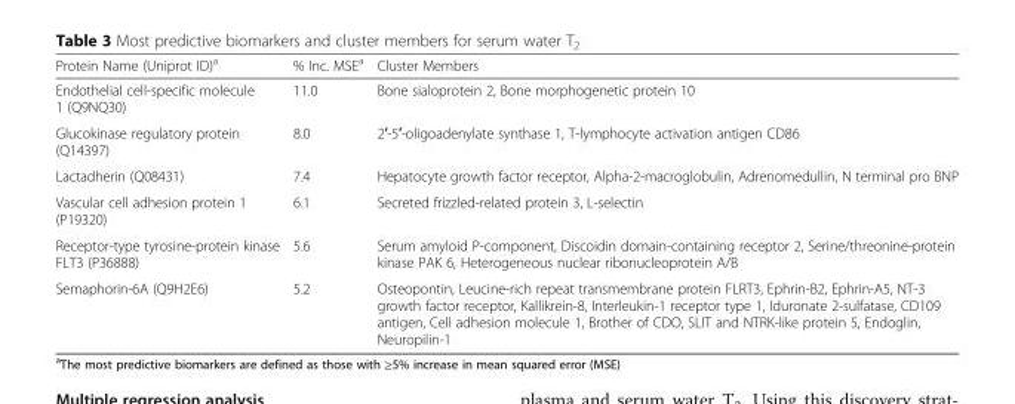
<table><thead><tr><td>Protein Name (Uniprot ID)<sup>a</sup></td><td>% Inc. MSE<sup>a</sup></td><td>Cluster Members</td></tr></thead><tbody><tr><td>Endothelial cell-specific molecule 1 (Q9NQ30)</td><td>11.0</td><td>Bone sialoprotein 2, Bone morphogenetic protein 10</td></tr><tr><td>Glucokinase regulatory protein (Q14397)</td><td>8.0</td><td>2′-5′-oligoadenylate synthase 1, T-lymphocyte activation antigen CD86</td></tr><tr><td>Lactadherin (Q08431)</td><td>7.4</td><td>Hepatocyte growth factor receptor, Alpha-2-macroglobulin, Adrenomedullin, N terminal pro BNP</td></tr><tr><td>Vascular cell adhesion protein 1 (P19320)</td><td>6.1</td><td>Secreted frizzled-related protein 3, L-selectin</td></tr><tr><td>Receptor-type tyrosine-protein kinase FLT3 (P36888)</td><td>5.6</td><td>Serum amyloid P-component, Discoidin domain-containing receptor 2, Serine/threonine-protein kinase PAK 6, Heterogeneous nuclear ribonucleoprotein A/B</td></tr><tr><td>Semaphorin-6A (Q9H2E6)</td><td>5.2</td><td>Osteopontin, Leucine-rich repeat transmembrane protein FLRT3, Ephrin-B2, Ephrin-A5, NT-3 growth factor receptor, Kallikrein-8, Interleukin-1 receptor type 1, Iduronate 2-sulfatase, CD109 antigen, Cell adhesion molecule 1, Brother of CDO, SLIT and NTRK-like protein 5, Endoglin, Neuropilin-1</td></tr></tbody></table>